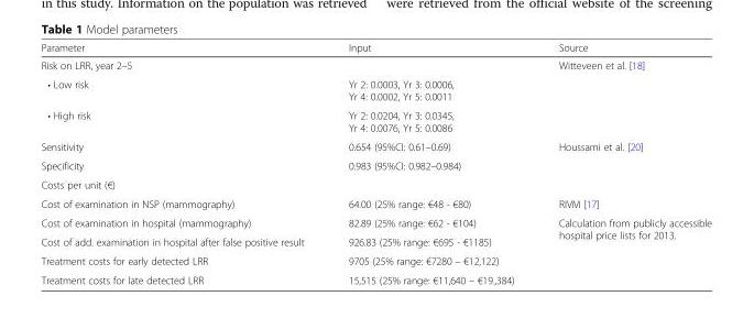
<table><thead><tr><td>Parameter</td><td>Input</td><td>Source</td></tr></thead><tbody><tr><td colspan="2">Risk on LRR, year 2–5</td><td rowspan="3">Witteveen et al. [18]</td></tr><tr><td>• Low risk</td><td>Yr 2: 0.0003, Yr 3: 0.0006, Yr 4: 0.0002, Yr 5: 0.0011</td></tr><tr><td>• High risk</td><td>Yr 2: 0.0204, Yr 3: 0.0345, Yr 4: 0.0076, Yr 5: 0.0086</td></tr><tr><td>Sensitivity</td><td>0.654 (95%CI: 0.61–0.69)</td><td rowspan="2">Houssami et al. [20]</td></tr><tr><td>Specificity</td><td>0.983 (95%CI: 0.982–0.984)</td></tr><tr><td colspan="3">Costs per unit (€)</td></tr><tr><td>Cost of examination in NSP (mammography)</td><td>64.00 (25% range: €48 - €80)</td><td>RIVM [17]</td></tr><tr><td>Cost of examination in hospital (mammography)</td><td>82.89 (25% range: €62 - €104)</td><td rowspan="4">Calculation from publicly accessible hospital price lists for 2013.</td></tr><tr><td>Cost of add. examination in hospital after false positive result</td><td>926.83 (25% range: €695 - €1185)</td></tr><tr><td>Treatment costs for early detected LRR</td><td>9705 (25% range: €7280 – €12,122)</td></tr><tr><td>Treatment costs for late detected LRR</td><td>15,515 (25% range: €11,640 – €19.,384)</td></tr></tbody></table>